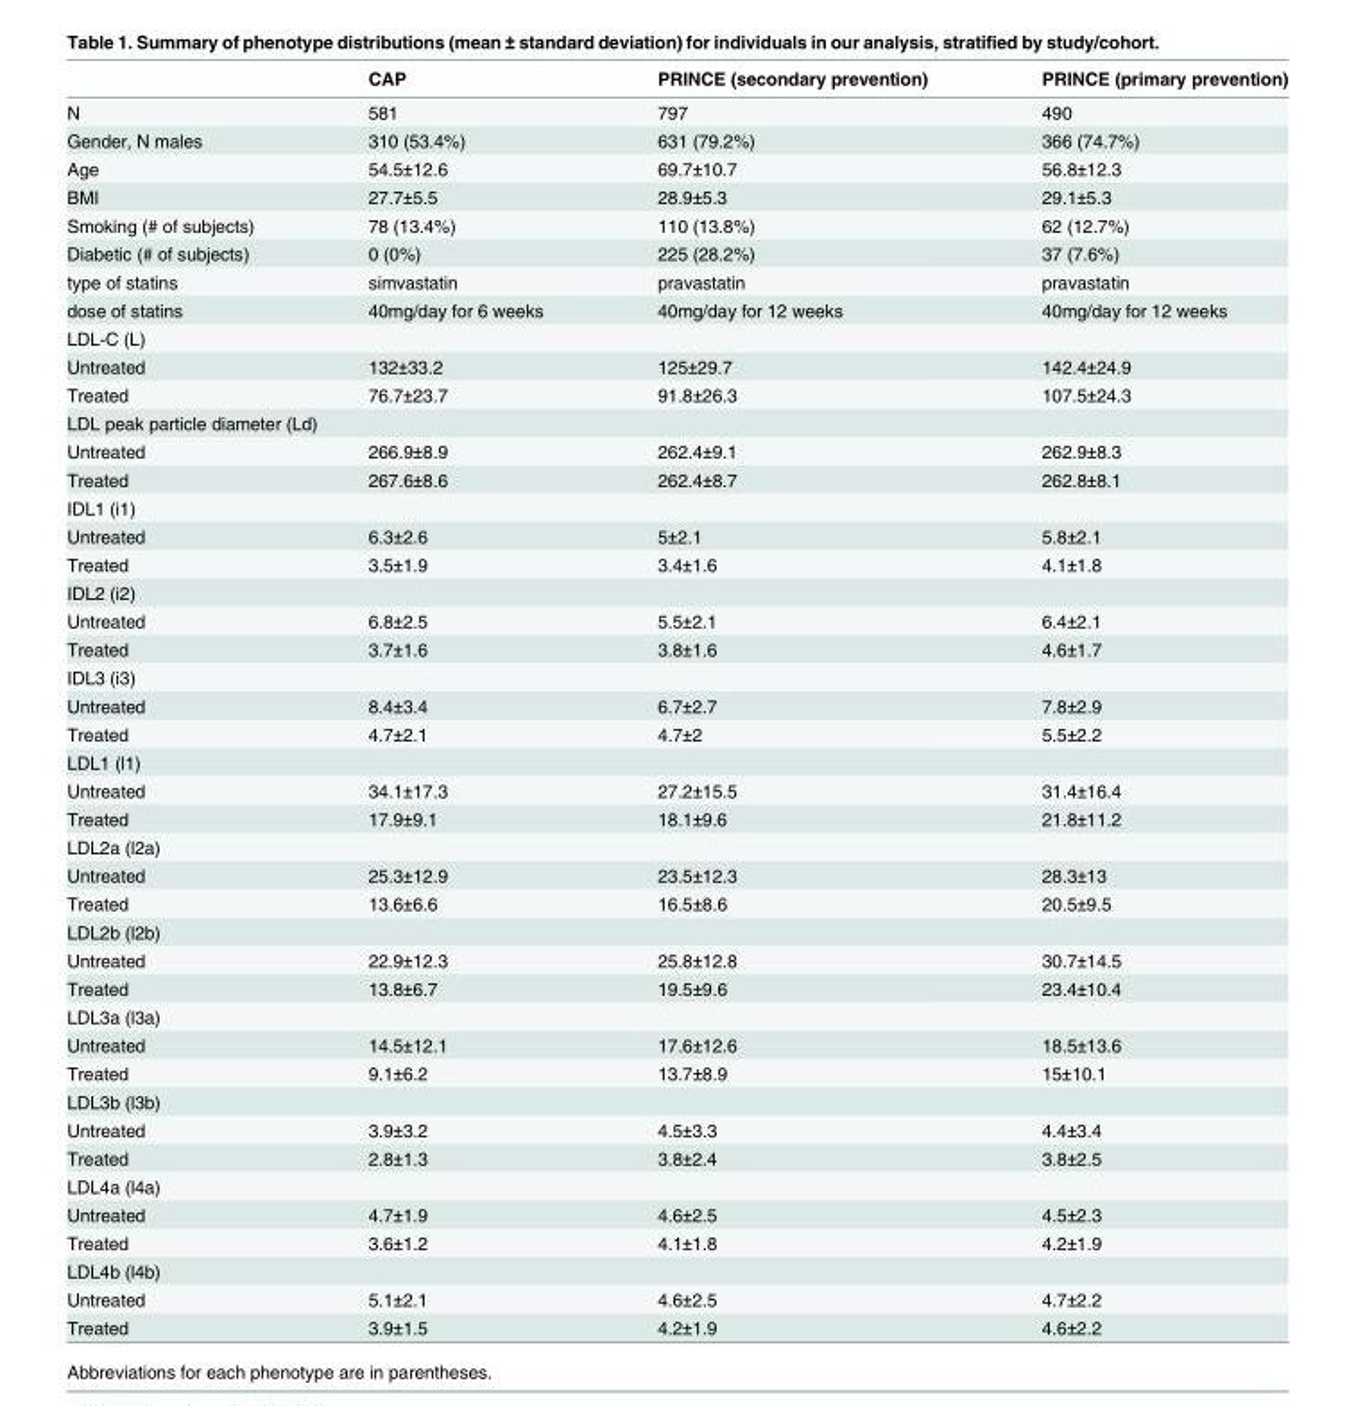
<table><thead><tr><td></td><td>CAP</td><td>PRINCE (secondary prevention)</td><td>PRINCE (primary prevention)</td></tr></thead><tbody><tr><td>N</td><td>581</td><td>797</td><td>490</td></tr><tr><td>Gender, N males</td><td>310 (53.4%)</td><td>631 (79.2%)</td><td>366 (74.7%)</td></tr><tr><td>Age</td><td>54.5±12.6</td><td>69.7±10.7</td><td>56.8±12.3</td></tr><tr><td>BMI</td><td>27.7±5.5</td><td>28.9±5.3</td><td>29.1±5.3</td></tr><tr><td>Smoking (# of subjects)</td><td>78 (13.4%)</td><td>110 (13.8%)</td><td>62 (12.7%)</td></tr><tr><td>Diabetic (# of subjects)</td><td>0 (0%)</td><td>225 (28.2%)</td><td>37 (7.6%)</td></tr><tr><td>type of statins</td><td>simvastatin</td><td>pravastatin</td><td>pravastatin</td></tr><tr><td>dose of statins</td><td>40mg/day for 6 weeks</td><td>40mg/day for 12 weeks</td><td>40mg/day for 12 weeks</td></tr><tr><td colspan="4">LDL-C (L)</td></tr><tr><td>Untreated</td><td>132±33.2</td><td>125±29.7</td><td>142.4±24.9</td></tr><tr><td>Treated</td><td>76.7±23.7</td><td>91.8±26.3</td><td>107.5±24.3</td></tr><tr><td colspan="4">LDL peak particle diameter (Ld)</td></tr><tr><td>Untreated</td><td>266.9±8.9</td><td>262.4±9.1</td><td>262.9±8.3</td></tr><tr><td>Treated</td><td>267.6±8.6</td><td>262.4±8.7</td><td>262.8±8.1</td></tr><tr><td colspan="4">IDL1 (i1)</td></tr><tr><td>Untreated</td><td>6.3±2.6</td><td>5±2.1</td><td>5.8±2.1</td></tr><tr><td>Treated</td><td>3.5±1.9</td><td>3.4±1.6</td><td>4.1±1.8</td></tr><tr><td colspan="4">IDL2 (i2)</td></tr><tr><td>Untreated</td><td>6.8±2.5</td><td>5.5±2.1</td><td>6.4±2.1</td></tr><tr><td>Treated</td><td>3.7±1.6</td><td>3.8±1.6</td><td>4.6±1.7</td></tr><tr><td colspan="4">IDL3 (i3)</td></tr><tr><td>Untreated</td><td>8.4±3.4</td><td>6.7±2.7</td><td>7.8±2.9</td></tr><tr><td>Treated</td><td>4.7±2.1</td><td>4.7±2</td><td>5.5±2.2</td></tr><tr><td colspan="4">LDL1 (l1)</td></tr><tr><td>Untreated</td><td>34.1±17.3</td><td>27.2±15.5</td><td>31.4±16.4</td></tr><tr><td>Treated</td><td>17.9±9.1</td><td>18.1±9.6</td><td>21.8±11.2</td></tr><tr><td colspan="4">LDL2a (l2a)</td></tr><tr><td>Untreated</td><td>25.3±12.9</td><td>23.5±12.3</td><td>28.3±13</td></tr><tr><td>Treated</td><td>13.6±6.6</td><td>16.5±8.6</td><td>20.5±9.5</td></tr><tr><td colspan="4">LDL2b (l2b)</td></tr><tr><td>Untreated</td><td>22.9±12.3</td><td>25.8±12.8</td><td>30.7±14.5</td></tr><tr><td>Treated</td><td>13.8±6.7</td><td>19.5±9.6</td><td>23.4±10.4</td></tr><tr><td colspan="4">LDL3a (l3a)</td></tr><tr><td>Untreated</td><td>14.5±12.1</td><td>17.6±12.6</td><td>18.5±13.6</td></tr><tr><td>Treated</td><td>9.1±6.2</td><td>13.7±8.9</td><td>15±10.1</td></tr><tr><td colspan="4">LDL3b (l3b)</td></tr><tr><td>Untreated</td><td>3.9±3.2</td><td>4.5±3.3</td><td>4.4±3.4</td></tr><tr><td>Treated</td><td>2.8±1.3</td><td>3.8±2.4</td><td>3.8±2.5</td></tr><tr><td colspan="4">LDL4a (l4a)</td></tr><tr><td>Untreated</td><td>4.7±1.9</td><td>4.6±2.5</td><td>4.5±2.3</td></tr><tr><td>Treated</td><td>3.6±1.2</td><td>4.1±1.8</td><td>4.2±1.9</td></tr><tr><td colspan="4">LDL4b (l4b)</td></tr><tr><td>Untreated</td><td>5.1±2.1</td><td>4.6±2.5</td><td>4.7±2.2</td></tr><tr><td>Treated</td><td>3.9±1.5</td><td>4.2±1.9</td><td>4.6±2.2</td></tr></tbody></table>